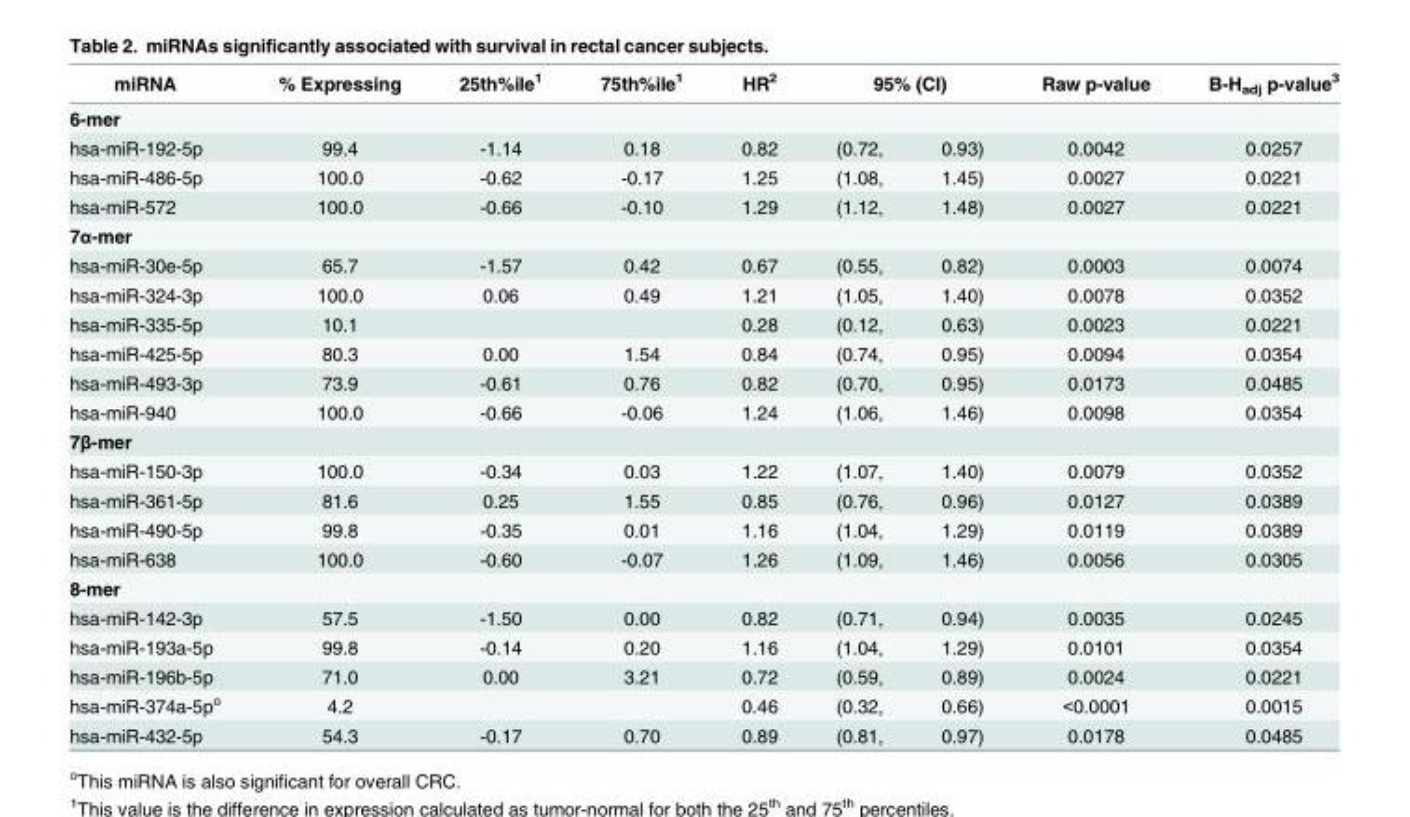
<table><thead><tr><td rowspan="2">miRNA 6-mer</td><td rowspan="2">% Expressing</td><td rowspan="2">25th%ile<sup>1</sup></td><td rowspan="2">75th%ile<sup>1</sup></td><td rowspan="2">HR<sup>2</sup></td><td colspan="2">95% (CI)</td><td rowspan="2">Raw p-value</td><td rowspan="2">B-H<sub>adj</sub> p-value<sup>3</sup></td></tr><tr><td></td><td></td></tr></thead><tbody><tr><td>hsa-miR-192-5p</td><td>99.4</td><td>-1.14</td><td>0.18</td><td>0.82</td><td>(0.72,</td><td>0.93)</td><td>0.0042</td><td>0.0257</td></tr><tr><td>hsa-miR-486-5p</td><td>100.0</td><td>-0.62</td><td>-0.17</td><td>1.25</td><td>(1.08,</td><td>1.45)</td><td>0.0027</td><td>0.0221</td></tr><tr><td>hsa-miR-572</td><td>100.0</td><td>-0.66</td><td>-0.10</td><td>1.29</td><td>(1.12,</td><td>1.48)</td><td>0.0027</td><td>0.0221</td></tr><tr><td colspan="9">7α-mer</td></tr><tr><td>hsa-miR-30e-5p</td><td>65.7</td><td>-1.57</td><td>0.42</td><td>0.67</td><td>(0.55,</td><td>0.82)</td><td>0.0003</td><td>0.0074</td></tr><tr><td>hsa-miR-324-3p</td><td>100.0</td><td>0.06</td><td>0.49</td><td>1.21</td><td>(1.05,</td><td>1.40)</td><td>0.0078</td><td>0.0352</td></tr><tr><td>hsa-miR-335-5p</td><td>10.1</td><td></td><td></td><td>0.28</td><td>(0.12,</td><td>0.63)</td><td>0.0023</td><td>0.0221</td></tr><tr><td>hsa-miR-425-5p</td><td>80.3</td><td>0.00</td><td>1.54</td><td>0.84</td><td>(0.74,</td><td>0.95)</td><td>0.0094</td><td>0.0354</td></tr><tr><td>hsa-miR-493-3p</td><td>73.9</td><td>-0.61</td><td>0.76</td><td>0.82</td><td>(0.70,</td><td>0.95)</td><td>0.0173</td><td>0.0485</td></tr><tr><td>hsa-miR-940</td><td>100.0</td><td>-0.66</td><td>-0.06</td><td>1.24</td><td>(1.06,</td><td>1.46)</td><td>0.0098</td><td>0.0354</td></tr><tr><td colspan="9">7β-mer</td></tr><tr><td>hsa-miR-150-3p</td><td>100.0</td><td>-0.34</td><td>0.03</td><td>1.22</td><td>(1.07,</td><td>1.40)</td><td>0.0079</td><td>0.0352</td></tr><tr><td>hsa-miR-361-5p</td><td>81.6</td><td>0.25</td><td>1.55</td><td>0.85</td><td>(0.76,</td><td>0.96)</td><td>0.0127</td><td>0.0389</td></tr><tr><td>hsa-miR-490-5p</td><td>99.8</td><td>-0.35</td><td>0.01</td><td>1.16</td><td>(1.04,</td><td>1.29)</td><td>0.0119</td><td>0.0389</td></tr><tr><td>hsa-miR-638</td><td>100.0</td><td>-0.60</td><td>-0.07</td><td>1.26</td><td>(1.09,</td><td>1.46)</td><td>0.0056</td><td>0.0305</td></tr><tr><td colspan="9">8-mer</td></tr><tr><td>hsa-miR-142-3p</td><td>57.5</td><td>-1.50</td><td>0.00</td><td>0.82</td><td>(0.71,</td><td>0.94)</td><td>0.0035</td><td>0.0245</td></tr><tr><td>hsa-miR-193a-5p</td><td>99.8</td><td>-0.14</td><td>0.20</td><td>1.16</td><td>(1.04,</td><td>1.29)</td><td>0.0101</td><td>0.0354</td></tr><tr><td>hsa-miR-196b-5p</td><td>71.0</td><td>0.00</td><td>3.21</td><td>0.72</td><td>(0.59,</td><td>0.89)</td><td>0.0024</td><td>0.0221</td></tr><tr><td>hsa-miR-374a-5p<sup>o</sup></td><td>4.2</td><td></td><td></td><td>0.46</td><td>(0.32,</td><td>0.66)</td><td>&lt;0.0001</td><td>0.0015</td></tr><tr><td>hsa-miR-432-5p</td><td>54.3</td><td>-0.17</td><td>0.70</td><td>0.89</td><td>(0.81,</td><td>0.97)</td><td>0.0178</td><td>0.0485</td></tr></tbody></table>